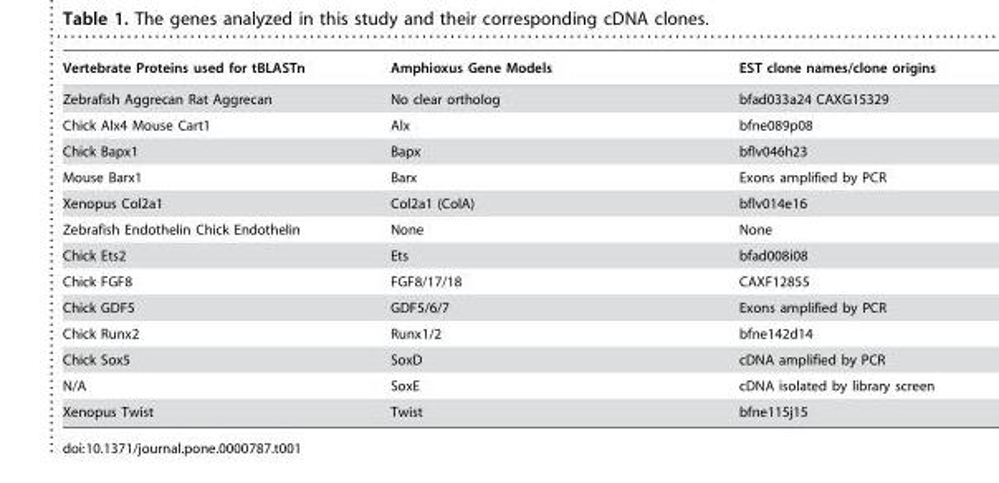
<table><thead><tr><td>Vertebrate Proteins used for tBLASTn</td><td>Amphioxus Gene Models</td><td>EST clone names/clone origins</td></tr></thead><tbody><tr><td>Zebrafish Aggrecan Rat Aggrecan</td><td>No clear ortholog</td><td>bfad033a24 CAXG15329</td></tr><tr><td>Chick Alx4 Mouse Cart1</td><td>Alx</td><td>bfne089p08</td></tr><tr><td>Chick Bapx1</td><td>Bapx</td><td>bflv046h23</td></tr><tr><td>Mouse Barx1</td><td>Barx</td><td>Exons amplified by PCR</td></tr><tr><td>Xenopus Col2a1</td><td>Col2a1 (ColA)</td><td>bflv014e16</td></tr><tr><td>Zebrafish Endothelin Chick Endothelin</td><td>None</td><td>None</td></tr><tr><td>Chick Ets2</td><td>Ets</td><td>bfad008i08</td></tr><tr><td>Chick FGF8</td><td>FGF8/17/18</td><td>CAXF12855</td></tr><tr><td>Chick GDF5</td><td>GDF5/6/7</td><td>Exons amplified by PCR</td></tr><tr><td>Chick Runx2</td><td>Runx1/2</td><td>bfne142d14</td></tr><tr><td>Chick Sox5</td><td>SoxD</td><td>cDNA amplified by PCR</td></tr><tr><td>N/A</td><td>SoxE</td><td>cDNA isolated by library screen</td></tr><tr><td>Xenopus Twist</td><td>Twist</td><td>bfne115j15</td></tr></tbody></table>